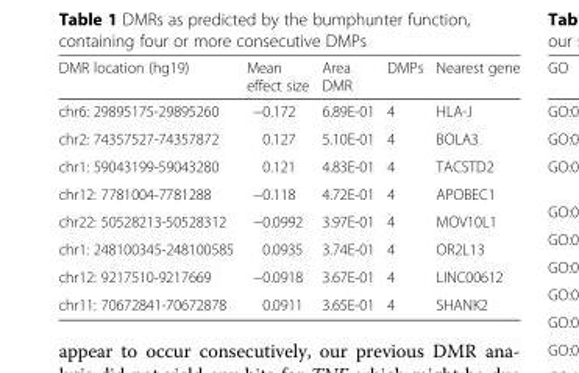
<table><thead><tr><td>DMR location (hg19)</td><td>Mean effect size</td><td>Area DMR</td><td>DMPs</td><td>Nearest gene</td></tr></thead><tbody><tr><td>chr6: 29895175-29895260</td><td>−0.172</td><td>6.89E-01</td><td>4</td><td>HLA-J</td></tr><tr><td>chr2: 74357527-74357872</td><td>0.127</td><td>5.10E-01</td><td>4</td><td>BOLA3</td></tr><tr><td>chr1: 59043199-59043280</td><td>0.121</td><td>4.83E-01</td><td>4</td><td>TACSTD2</td></tr><tr><td>chr12: 7781004-7781288</td><td>−0.118</td><td>4.72E-01</td><td>4</td><td>APOBEC1</td></tr><tr><td>chr22: 50528213-50528312</td><td>−0.0992</td><td>3.97E-01</td><td>4</td><td>MOV10L1</td></tr><tr><td>chr1: 248100345-248100585</td><td>0.0935</td><td>3.74E-01</td><td>4</td><td>OR2L13</td></tr><tr><td>chr12: 9217510-9217669</td><td>−0.0918</td><td>3.67E-01</td><td>4</td><td>LINC00612</td></tr><tr><td>chr11: 70672841-70672878</td><td>0.0911</td><td>3.65E-01</td><td>4</td><td>SHANK2</td></tr></tbody></table>